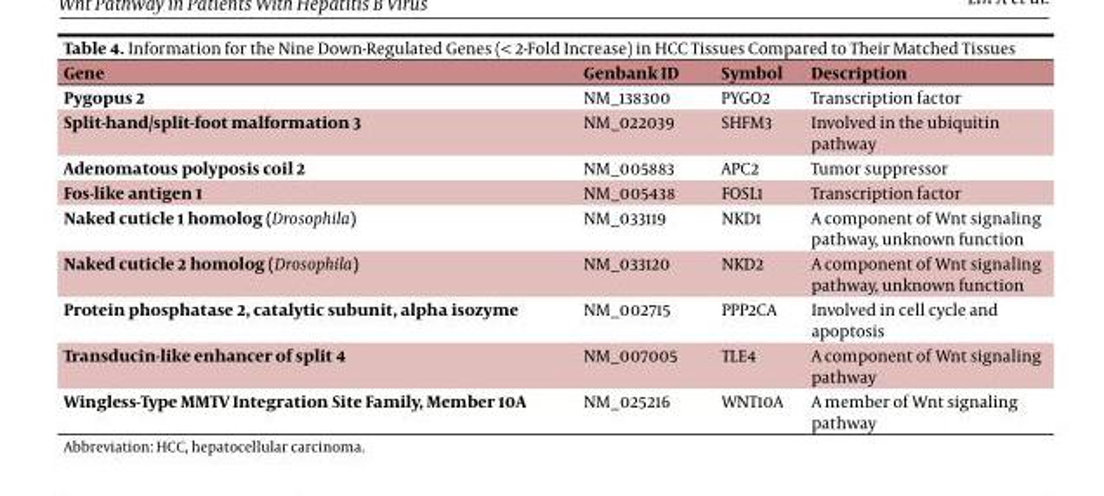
<table><thead><tr><td>Gene</td><td>Genbank ID</td><td>Symbol</td><td>Description</td></tr></thead><tbody><tr><td>Pygopus 2</td><td>NM_138300</td><td>PYGO2</td><td>Transcription factor</td></tr><tr><td>Split-hand/split-foot malformation 3</td><td>NM_022039</td><td>SHFM3</td><td>Involved in the ubiquitin pathway</td></tr><tr><td>Adenomatous polyposis coil 2</td><td>NM_005883</td><td>APC2</td><td>Tumor suppressor</td></tr><tr><td>Fos-like antigen 1</td><td>NM_005438</td><td>FOSL1</td><td>Transcription factor</td></tr><tr><td>Naked cuticle 1 homolog (Drosophila)</td><td>NM_033119</td><td>NKD1</td><td>A component of Wnt signaling pathway, unknown function</td></tr><tr><td>Naked cuticle 2 homolog (Drosophila)</td><td>NM_033120</td><td>NKD2</td><td>A component of Wnt signaling pathway, unknown function</td></tr><tr><td>Protein phosphatase 2, catalytic subunit, alpha isozyme</td><td>NM_002715</td><td>PPP2CA</td><td>Involved in cell cycle and apoptosis</td></tr><tr><td>Transducin-like enhancer of split 4</td><td>NM_007005</td><td>TLE4</td><td>A component of Wnt signaling pathway</td></tr><tr><td>Wingless-Type MMTV Integration Site Family, Member 10A</td><td>NM_025216</td><td>WNT10A</td><td>A member of Wnt signaling pathway</td></tr></tbody></table>